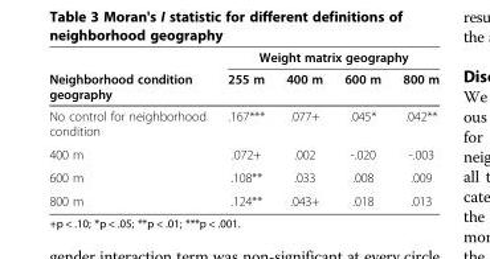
<table><thead><tr><td rowspan="2">Neighborhood condition geography</td><td colspan="4">Weight matrix geography</td></tr><tr><td>255 m</td><td>400 m</td><td>600 m</td><td>800 m</td></tr></thead><tbody><tr><td>No control for neighborhood condition</td><td>.167***</td><td>.077+</td><td>.045*</td><td>.042**</td></tr><tr><td>400 m</td><td>.072+</td><td>.002</td><td>-.020</td><td>-.003</td></tr><tr><td>600 m</td><td>.108**</td><td>.033</td><td>.008</td><td>.009</td></tr><tr><td>800 m</td><td>.124**</td><td>.043+</td><td>.018</td><td>.013</td></tr></tbody></table>